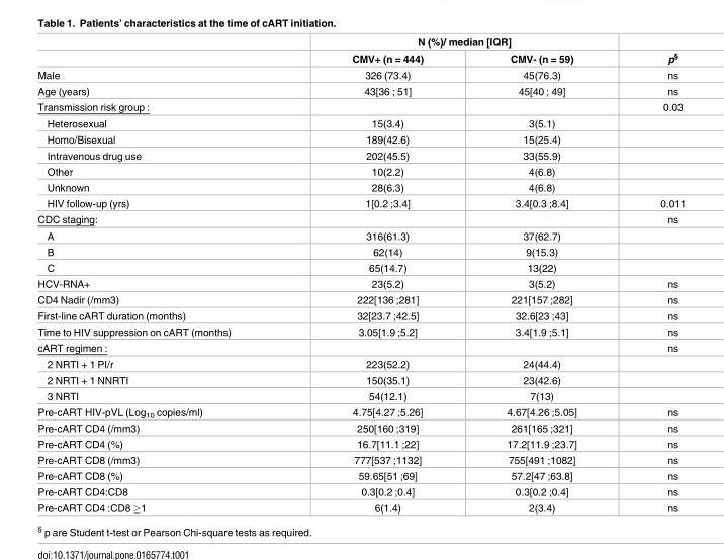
<table><thead><tr><td rowspan="2"></td><td colspan="2">N (%)/ median [IQR]</td><td rowspan="2">p<sup>§</sup></td></tr><tr><td>CMV+ (n = 444)</td><td>CMV- (n = 59)</td></tr></thead><tbody><tr><td>Male</td><td>326 (73.4)</td><td>45(76.3)</td><td>ns</td></tr><tr><td>Age (years)</td><td>43[36 ; 51]</td><td>45[40 ; 49]</td><td>ns</td></tr><tr><td>Transmission risk group :</td><td></td><td></td><td>0.03</td></tr><tr><td>Heterosexual</td><td>15(3.4)</td><td>3(5.1)</td><td></td></tr><tr><td>Homo/Bisexual</td><td>189(42.6)</td><td>15(25.4)</td><td></td></tr><tr><td>Intravenous drug use</td><td>202(45.5)</td><td>33(55.9)</td><td></td></tr><tr><td>Other</td><td>10(2.2)</td><td>4(6.8)</td><td></td></tr><tr><td>Unknown</td><td>28(6.3)</td><td>4(6.8)</td><td></td></tr><tr><td>HIV follow-up (yrs)</td><td>1[0.2 ;3.4]</td><td>3.4[0.3 ;8.4]</td><td>0.011</td></tr><tr><td>CDC staging:</td><td></td><td></td><td>ns</td></tr><tr><td>A</td><td>316(61.3)</td><td>37(62.7)</td><td></td></tr><tr><td>B</td><td>62(14)</td><td>9(15.3)</td><td></td></tr><tr><td>C</td><td>65(14.7)</td><td>13(22)</td><td></td></tr><tr><td>HCV-RNA+</td><td>23(5.2)</td><td>3(5.2)</td><td>ns</td></tr><tr><td>CD4 Nadir (/mm3)</td><td>222[136 ;281]</td><td>221[157 ;282]</td><td>ns</td></tr><tr><td>First-line cART duration (months)</td><td>32[23.7 ;42.5]</td><td>32.6[23 ;43]</td><td>ns</td></tr><tr><td>Time to HIV suppression on cART (months)</td><td>3.05[1.9 ;5.2]</td><td>3.4[1.9 ;5.1]</td><td>ns</td></tr><tr><td>cART regimen :</td><td></td><td></td><td>ns</td></tr><tr><td>2 NRTI + 1 PI/r</td><td>223(52.2)</td><td>24(44.4)</td><td></td></tr><tr><td>2 NRTI + 1 NNRTI</td><td>150(35.1)</td><td>23(42.6)</td><td></td></tr><tr><td>3 NRTI</td><td>54(12.1)</td><td>7(13)</td><td></td></tr><tr><td>Pre-cART HIV-pVL (Log<sub>10</sub> copies/ml)</td><td>4.75[4.27 ;5.26]</td><td>4.67[4.26 ;5.05]</td><td>ns</td></tr><tr><td>Pre-cART CD4 (/mm3)</td><td>250[160 ;319]</td><td>261[165 ;321]</td><td>ns</td></tr><tr><td>Pre-cART CD4 (%)</td><td>16.7[11.1 ;22]</td><td>17.2[11.9 ;23.7]</td><td>ns</td></tr><tr><td>Pre-cART CD8 (/mm3)</td><td>777[537 ;1132]</td><td>755[491 ;1082]</td><td>ns</td></tr><tr><td>Pre-cART CD8 (%)</td><td>59.65[51 ;69]</td><td>57.2[47 ;63.8]</td><td>ns</td></tr><tr><td>Pre-cART CD4:CD8</td><td>0.3[0.2 ;0.4]</td><td>0.3[0.2 ;0.4]</td><td>ns</td></tr><tr><td>Pre-cART CD4 :CD8 ≥1</td><td>6(1.4)</td><td>2(3.4)</td><td>ns</td></tr></tbody></table>